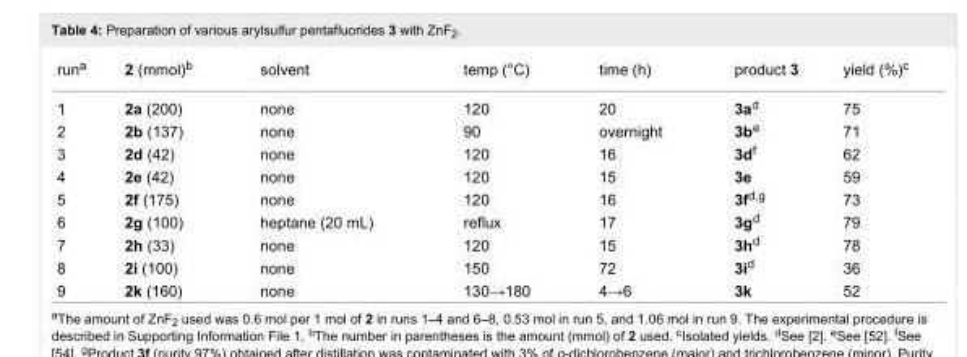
<table><tbody><tr><td>run<sup>a</sup></td><td>2 (mmol)<sup>b</sup></td><td>solvent</td><td>temp (°C)</td><td>time (h)</td><td>product 3</td><td>yield (%)<sup>c</sup></td></tr><tr><td>1</td><td>2a (200)</td><td>none</td><td>120</td><td>20</td><td>3a<sup>d</sup></td><td>75</td></tr><tr><td>2</td><td>2b (137)</td><td>none</td><td>90</td><td>overnight</td><td>3b<sup>e</sup></td><td>71</td></tr><tr><td>3</td><td>2d (42)</td><td>none</td><td>120</td><td>16</td><td>3d<sup>f</sup></td><td>62</td></tr><tr><td>4</td><td>2e (42)</td><td>none</td><td>120</td><td>15</td><td>3e</td><td>59</td></tr><tr><td>5</td><td>2f (175)</td><td>none</td><td>120</td><td>16</td><td>3f<sup>d,g</sup></td><td>73</td></tr><tr><td>6</td><td>2g (100)</td><td>heptane (20 mL)</td><td>reflux</td><td>17</td><td>3g<sup>d</sup></td><td>79</td></tr><tr><td>7</td><td>2h (33)</td><td>none</td><td>120</td><td>15</td><td>3h<sup>d</sup></td><td>78</td></tr><tr><td>8</td><td>2i (100)</td><td>none</td><td>150</td><td>72</td><td>3i<sup>d</sup></td><td>36</td></tr><tr><td>9</td><td>2k (160)</td><td>none</td><td>130→180</td><td>4→6</td><td>3k</td><td>52</td></tr></tbody></table>